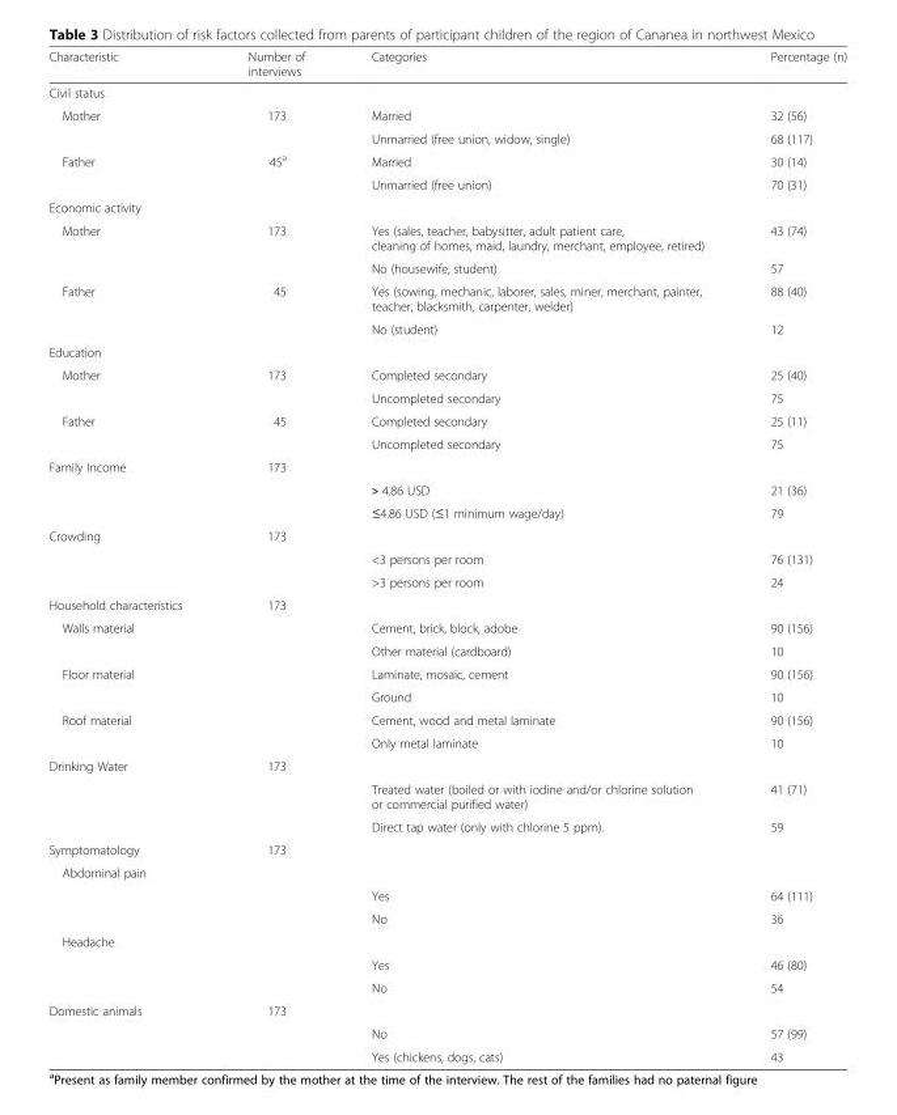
<table><thead><tr><td>Characteristic</td><td>Number of interviews</td><td>Categories</td><td>Percentage (n)</td></tr></thead><tbody><tr><td colspan="4">Civil status</td></tr><tr><td rowspan="2">Mother</td><td>173</td><td>Married</td><td>32 (56)</td></tr><tr><td></td><td>Unmarried (free union, widow, single)</td><td>68 (117)</td></tr><tr><td rowspan="2">Father</td><td>45<sup>a</sup></td><td>Married</td><td>30 (14)</td></tr><tr><td></td><td>Unmarried (free union)</td><td>70 (31)</td></tr><tr><td colspan="4">Economic activity</td></tr><tr><td rowspan="2">Mother</td><td>173</td><td>Yes (sales, teacher, babysitter, adult patient care, cleaning of homes, maid, laundry, merchant, employee, retired)</td><td>43 (74)</td></tr><tr><td></td><td>No (housewife, student)</td><td>57</td></tr><tr><td rowspan="2">Father</td><td>45</td><td>Yes (sowing, mechanic, laborer, sales, miner, merchant, painter, teacher, blacksmith, carpenter, welder)</td><td>88 (40)</td></tr><tr><td></td><td>No (student)</td><td>12</td></tr><tr><td colspan="4">Education</td></tr><tr><td rowspan="2">Mother</td><td>173</td><td>Completed secondary</td><td>25 (40)</td></tr><tr><td></td><td>Uncompleted secondary</td><td>75</td></tr><tr><td rowspan="2">Father</td><td>45</td><td>Completed secondary</td><td>25 (11)</td></tr><tr><td></td><td>Uncompleted secondary</td><td>75</td></tr><tr><td rowspan="3">Family Income</td><td>173</td><td></td><td></td></tr><tr><td></td><td>˃ 4.86 USD</td><td>21 (36)</td></tr><tr><td></td><td>≤4.86 USD (≤1 minimum wage/day)</td><td>79</td></tr><tr><td rowspan="3">Crowding</td><td>173</td><td></td><td></td></tr><tr><td></td><td>&lt;3 persons per room</td><td>76 (131)</td></tr><tr><td></td><td>&gt;3 persons per room</td><td>24</td></tr><tr><td>Household characteristics</td><td>173</td><td></td><td></td></tr><tr><td rowspan="2">Walls material</td><td></td><td>Cement, brick, block, adobe</td><td>90 (156)</td></tr><tr><td></td><td>Other material (cardboard)</td><td>10</td></tr><tr><td rowspan="2">Floor material</td><td></td><td>Laminate, mosaic, cement</td><td>90 (156)</td></tr><tr><td></td><td>Ground</td><td>10</td></tr><tr><td rowspan="2">Roof material</td><td></td><td>Cement, wood and metal laminate</td><td>90 (156)</td></tr><tr><td></td><td>Only metal laminate</td><td>10</td></tr><tr><td rowspan="3">Drinking Water</td><td>173</td><td></td><td></td></tr><tr><td></td><td>Treated water (boiled or with iodine and/or chlorine solution or commercial purified water)</td><td>41 (71)</td></tr><tr><td></td><td>Direct tap water (only with chlorine 5 ppm).</td><td>59</td></tr><tr><td>Symptomatology</td><td>173</td><td></td><td></td></tr><tr><td colspan="4">Abdominal pain</td></tr><tr><td></td><td></td><td>Yes</td><td>64 (111)</td></tr><tr><td></td><td></td><td>No</td><td>36</td></tr><tr><td colspan="4">Headache</td></tr><tr><td></td><td></td><td>Yes</td><td>46 (80)</td></tr><tr><td></td><td></td><td>No</td><td>54</td></tr><tr><td rowspan="3">Domestic animals</td><td>173</td><td></td><td></td></tr><tr><td></td><td>No</td><td>57 (99)</td></tr><tr><td></td><td>Yes (chickens, dogs, cats)</td><td>43</td></tr></tbody></table>